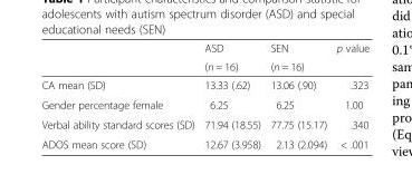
<table><thead><tr><td rowspan="2"></td><td rowspan="2">ASD (n = 16)</td><td rowspan="2">SEN (n = 16)</td><td rowspan="2">p value</td></tr><tr></tr></thead><tbody><tr><td>CA mean (SD)</td><td>13.33 (.62)</td><td>13.06 (.90)</td><td>.323</td></tr><tr><td>Gender percentage female</td><td>6.25</td><td>6.25</td><td>1.00</td></tr><tr><td>Verbal ability standard scores (SD)</td><td>71.94 (18.55)</td><td>77.75 (15.17)</td><td>.340</td></tr><tr><td>ADOS mean score (SD)</td><td>12.67 (3.958)</td><td>2.13 (2.094)</td><td>&lt; .001</td></tr></tbody></table>